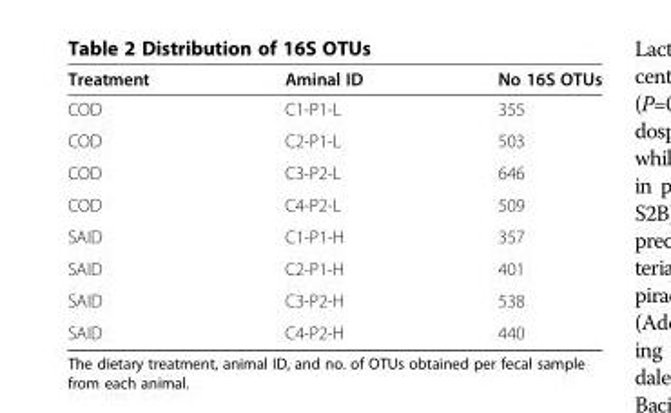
<table><thead><tr><td>Treatment</td><td>Aminal ID</td><td>No 16S OTUs</td></tr></thead><tbody><tr><td>COD</td><td>C1-P1-L</td><td>355</td></tr><tr><td>COD</td><td>C2-P1-L</td><td>503</td></tr><tr><td>COD</td><td>C3-P2-L</td><td>646</td></tr><tr><td>COD</td><td>C4-P2-L</td><td>509</td></tr><tr><td>SAID</td><td>C1-P1-H</td><td>357</td></tr><tr><td>SAID</td><td>C2-P1-H</td><td>401</td></tr><tr><td>SAID</td><td>C3-P2-H</td><td>538</td></tr><tr><td>SAID</td><td>C4-P2-H</td><td>440</td></tr></tbody></table>